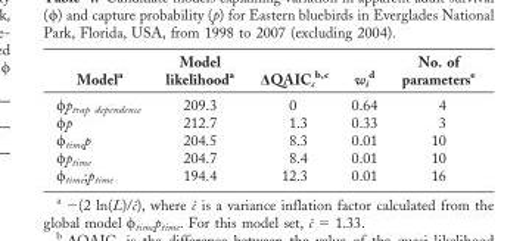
<table><thead><tr><td>Model<sup>a</sup></td><td>Model likelihood<sup>a</sup></td><td>ΔQAIC<sub>c</sub> <sup>b</sup>,<sup>c</sup></td><td>w<sub>i</sub> <sup>d</sup></td><td>No. of parameterse</td></tr></thead><tbody><tr><td>ϕp<sub>trap dependence</sub></td><td>209.3</td><td>0</td><td>0.64</td><td>4</td></tr><tr><td>ϕp</td><td>212.7</td><td>1.3</td><td>0.33</td><td>3</td></tr><tr><td>ϕ<sub>time</sub>p</td><td>204.5</td><td>8.3</td><td>0.01</td><td>10</td></tr><tr><td>ϕp<sub>time</sub></td><td>204.7</td><td>8.4</td><td>0.01</td><td>10</td></tr><tr><td>ϕ<sub>time</sub>;p<sub>time</sub></td><td>194.4</td><td>12.3</td><td>0.01</td><td>16</td></tr></tbody></table>